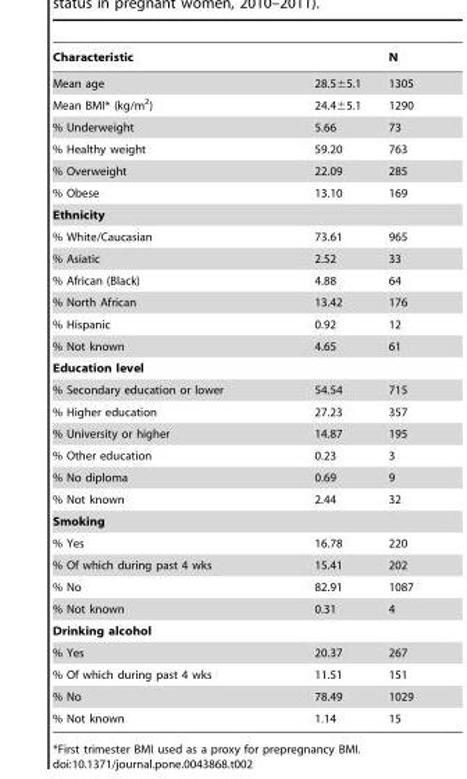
<table><thead><tr><td>Characteristic</td><td></td><td>N</td></tr></thead><tbody><tr><td>Mean age</td><td>28.5±5.1</td><td>1305</td></tr><tr><td>Mean BMI* (kg/m<sup>2</sup>)</td><td>24.4±5.1</td><td>1290</td></tr><tr><td>% Underweight</td><td>5.66</td><td>73</td></tr><tr><td>% Healthy weight</td><td>59.20</td><td>763</td></tr><tr><td>% Overweight</td><td>22.09</td><td>285</td></tr><tr><td>% Obese</td><td>13.10</td><td>169</td></tr><tr><td colspan="3">Ethnicity</td></tr><tr><td>% White/Caucasian</td><td>73.61</td><td>965</td></tr><tr><td>% Asiatic</td><td>2.52</td><td>33</td></tr><tr><td>% African (Black)</td><td>4.88</td><td>64</td></tr><tr><td>% North African</td><td>13.42</td><td>176</td></tr><tr><td>% Hispanic</td><td>0.92</td><td>12</td></tr><tr><td>% Not known</td><td>4.65</td><td>61</td></tr><tr><td colspan="3">Education level</td></tr><tr><td>% Secondary education or lower</td><td>54.54</td><td>715</td></tr><tr><td>% Higher education</td><td>27.23</td><td>357</td></tr><tr><td>% University or higher</td><td>14.87</td><td>195</td></tr><tr><td>% Other education</td><td>0.23</td><td>3</td></tr><tr><td>% No diploma</td><td>0.69</td><td>9</td></tr><tr><td>% Not known</td><td>2.44</td><td>32</td></tr><tr><td colspan="3">Smoking</td></tr><tr><td>% Yes</td><td>16.78</td><td>220</td></tr><tr><td>% Of which during past 4 wks</td><td>15.41</td><td>202</td></tr><tr><td>% No</td><td>82.91</td><td>1087</td></tr><tr><td>% Not known</td><td>0.31</td><td>4</td></tr><tr><td colspan="3">Drinking alcohol</td></tr><tr><td>% Yes</td><td>20.37</td><td>267</td></tr><tr><td>% Of which during past 4 wks</td><td>11.51</td><td>151</td></tr><tr><td>% No</td><td>78.49</td><td>1029</td></tr><tr><td>% Not known</td><td>1.14</td><td>15</td></tr></tbody></table>